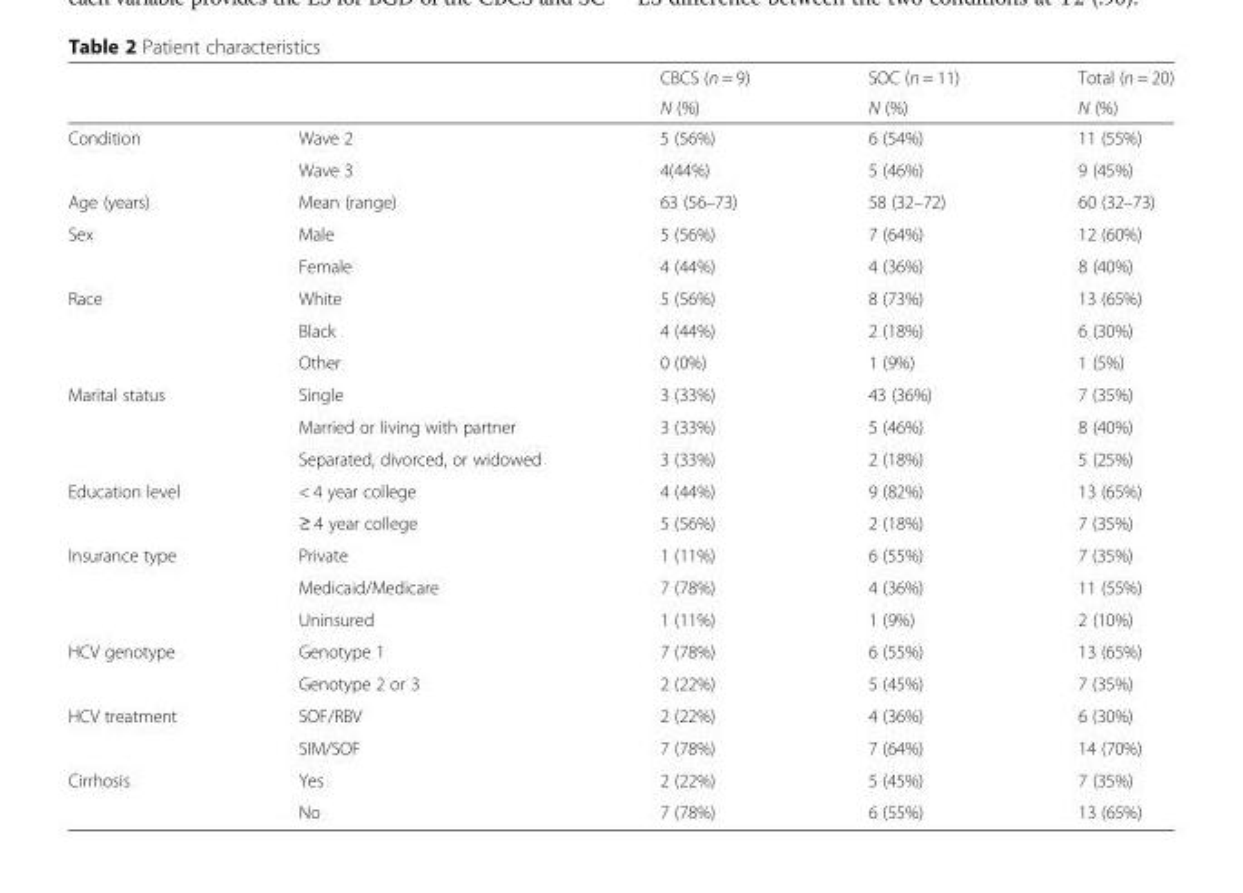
<table><thead><tr><td rowspan="2"></td><td rowspan="2"></td><td rowspan="2">CBCS (n = 9) N (%)</td><td rowspan="2">SOC (n = 11) N (%)</td><td rowspan="2">Total (n = 20) N (%)</td></tr><tr></tr></thead><tbody><tr><td rowspan="2">Condition</td><td>Wave 2</td><td>5 (56%)</td><td>6 (54%)</td><td>11 (55%)</td></tr><tr><td>Wave 3</td><td>4(44%)</td><td>5 (46%)</td><td>9 (45%)</td></tr><tr><td>Age (years)</td><td>Mean (range)</td><td>63 (56–73)</td><td>58 (32–72)</td><td>60 (32–73)</td></tr><tr><td rowspan="2">Sex</td><td>Male</td><td>5 (56%)</td><td>7 (64%)</td><td>12 (60%)</td></tr><tr><td>Female</td><td>4 (44%)</td><td>4 (36%)</td><td>8 (40%)</td></tr><tr><td rowspan="3">Race</td><td>White</td><td>5 (56%)</td><td>8 (73%)</td><td>13 (65%)</td></tr><tr><td>Black</td><td>4 (44%)</td><td>2 (18%)</td><td>6 (30%)</td></tr><tr><td>Other</td><td>0 (0%)</td><td>1 (9%)</td><td>1 (5%)</td></tr><tr><td rowspan="3">Marital status</td><td>Single</td><td>3 (33%)</td><td>43 (36%)</td><td>7 (35%)</td></tr><tr><td>Married or living with partner</td><td>3 (33%)</td><td>5 (46%)</td><td>8 (40%)</td></tr><tr><td>Separated, divorced, or widowed</td><td>3 (33%)</td><td>2 (18%)</td><td>5 (25%)</td></tr><tr><td rowspan="2">Education level</td><td>&lt; 4 year college</td><td>4 (44%)</td><td>9 (82%)</td><td>13 (65%)</td></tr><tr><td>≥ 4 year college</td><td>5 (56%)</td><td>2 (18%)</td><td>7 (35%)</td></tr><tr><td rowspan="3">Insurance type</td><td>Private</td><td>1 (11%)</td><td>6 (55%)</td><td>7 (35%)</td></tr><tr><td>Medicaid/Medicare</td><td>7 (78%)</td><td>4 (36%)</td><td>11 (55%)</td></tr><tr><td>Uninsured</td><td>1 (11%)</td><td>1 (9%)</td><td>2 (10%)</td></tr><tr><td rowspan="2">HCV genotype</td><td>Genotype 1</td><td>7 (78%)</td><td>6 (55%)</td><td>13 (65%)</td></tr><tr><td>Genotype 2 or 3</td><td>2 (22%)</td><td>5 (45%)</td><td>7 (35%)</td></tr><tr><td rowspan="2">HCV treatment</td><td>SOF/RBV</td><td>2 (22%)</td><td>4 (36%)</td><td>6 (30%)</td></tr><tr><td>SIM/SOF</td><td>7 (78%)</td><td>7 (64%)</td><td>14 (70%)</td></tr><tr><td rowspan="2">Cirrhosis</td><td>Yes</td><td>2 (22%)</td><td>5 (45%)</td><td>7 (35%)</td></tr><tr><td>No</td><td>7 (78%)</td><td>6 (55%)</td><td>13 (65%)</td></tr></tbody></table>